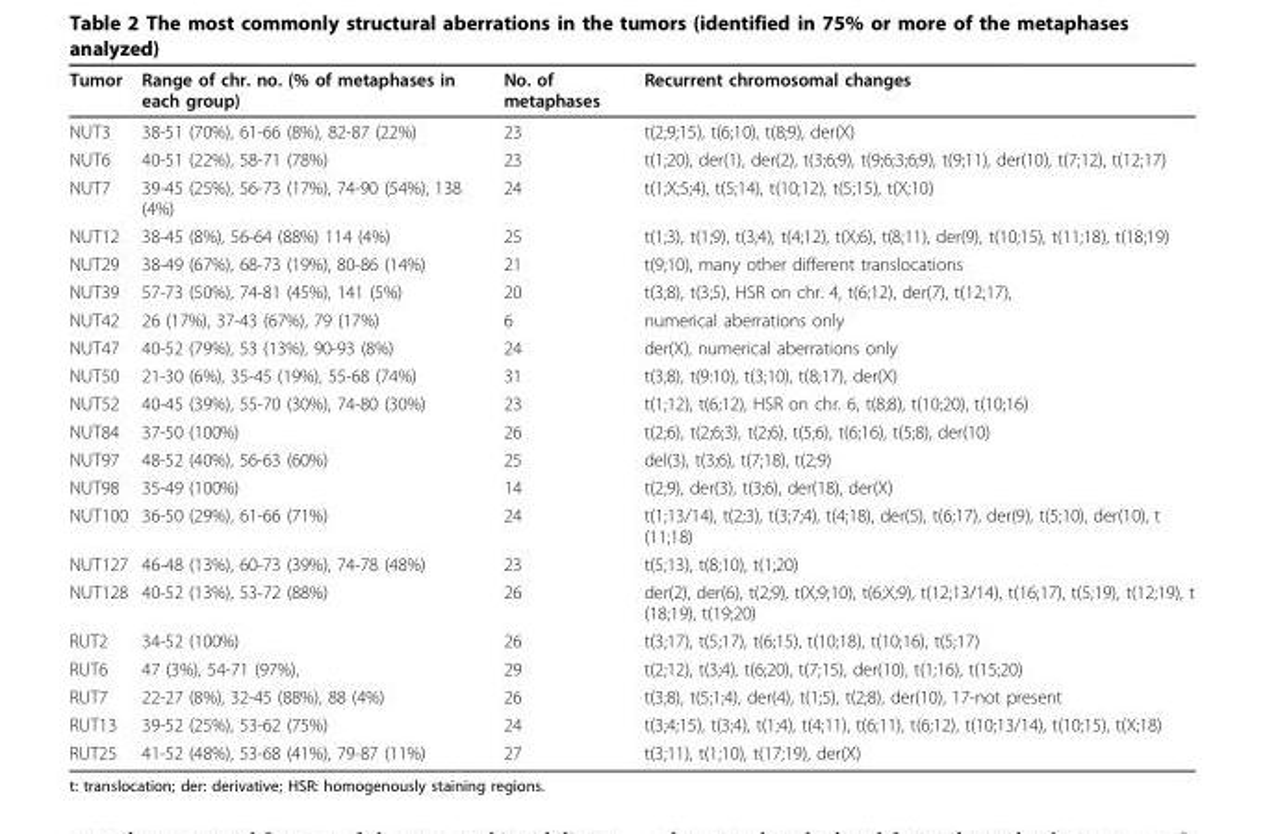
<table><thead><tr><td>Tumor</td><td>Range of chr. no. (% of metaphases in each group)</td><td>No. of metaphases</td><td>Recurrent chromosomal changes</td></tr></thead><tbody><tr><td>NUT3</td><td>38-51 (70%), 61-66 (8%), 82-87 (22%)</td><td>23</td><td>t(2;9;15), t(6;10), t(8;9), der(X)</td></tr><tr><td>NUT6</td><td>40-51 (22%), 58-71 (78%)</td><td>23</td><td>t(1;20), der(1), der(2), t(3;6;9), t(9;6;3;6;9), t(9;11), der(10), t(7;12), t(12;17)</td></tr><tr><td>NUT7</td><td>39-45 (25%), 56-73 (17%), 74-90 (54%), 138 (4%)</td><td>24</td><td>t(1;X;5;4), t(5;14), t(10;12), t(5;15), t(X;10)</td></tr><tr><td>NUT12</td><td>38-45 (8%), 56-64 (88%) 114 (4%)</td><td>25</td><td>t(1;3), t(1;9), t(3;4), t(4;12), t(X;6), t(8;11), der(9), t(10;15), t(11;18), t(18;19)</td></tr><tr><td>NUT29</td><td>38-49 (67%), 68-73 (19%), 80-86 (14%)</td><td>21</td><td>t(9;10), many other different translocations</td></tr><tr><td>NUT39</td><td>57-73 (50%), 74-81 (45%), 141 (5%)</td><td>20</td><td>t(3;8), t(3;5), HSR on chr. 4, t(6;12), der(7), t(12;17),</td></tr><tr><td>NUT42</td><td>26 (17%), 37-43 (67%), 79 (17%)</td><td>6</td><td>numerical aberrations only</td></tr><tr><td>NUT47</td><td>40-52 (79%), 53 (13%), 90-93 (8%)</td><td>24</td><td>der(X), numerical aberrations only</td></tr><tr><td>NUT50</td><td>21-30 (6%), 35-45 (19%), 55-68 (74%)</td><td>31</td><td>t(3;8), t(9:10), t(3;10), t(8;17), der(X)</td></tr><tr><td>NUT52</td><td>40-45 (39%), 55-70 (30%), 74-80 (30%)</td><td>23</td><td>t(1;12), t(6;12), HSR on chr. 6, t(8;8), t(10;20), t(10;16)</td></tr><tr><td>NUT84</td><td>37-50 (100%)</td><td>26</td><td>t(2;6), t(2;6;3), t(2;6), t(5;6), t(6;16), t(5;8), der(10)</td></tr><tr><td>NUT97</td><td>48-52 (40%), 56-63 (60%)</td><td>25</td><td>del(3), t(3;6), t(7;18), t(2;9)</td></tr><tr><td>NUT98</td><td>35-49 (100%)</td><td>14</td><td>t(2;9), der(3), t(3;6), der(18), der(X)</td></tr><tr><td>NUT100</td><td>36-50 (29%), 61-66 (71%)</td><td>24</td><td>t(1;13/14), t(2;3), t(3;7;4), t(4;18), der(5), t(6;17), der(9), t(5;10), der(10), t (11;18)</td></tr><tr><td>NUT127</td><td>46-48 (13%), 60-73 (39%), 74-78 (48%)</td><td>23</td><td>t(5;13), t(8;10), t(1;20)</td></tr><tr><td>NUT128</td><td>40-52 (13%), 53-72 (88%)</td><td>26</td><td>der(2), der(6), t(2;9), t(X;9;10), t(6;X;9), t(12;13/14), t(16;17), t(5;19), t(12;19), t (18;19), t(19;20)</td></tr><tr><td>RUT2</td><td>34-52 (100%)</td><td>26</td><td>t(3;17), t(5;17), t(6;15), t(10;18), t(10;16), t(5;17)</td></tr><tr><td>RUT6</td><td>47 (3%), 54-71 (97%),</td><td>29</td><td>t(2;12), t(3;4), t(6;20), t(7;15), der(10), t(1;16), t(15;20)</td></tr><tr><td>RUT7</td><td>22-27 (8%), 32-45 (88%), 88 (4%)</td><td>26</td><td>t(3;8), t(5;1;4), der(4), t(1;5), t(2;8), der(10), 17-not present</td></tr><tr><td>RUT13</td><td>39-52 (25%), 53-62 (75%)</td><td>24</td><td>t(3;4;15), t(3;4), t(1;4), t(4;11), t(6;11), t(6;12), t(10;13/14), t(10;15), t(X;18)</td></tr><tr><td>RUT25</td><td>41-52 (48%), 53-68 (41%), 79-87 (11%)</td><td>27</td><td>t(3;11), t(1;10), t(17;19), der(X)</td></tr></tbody></table>